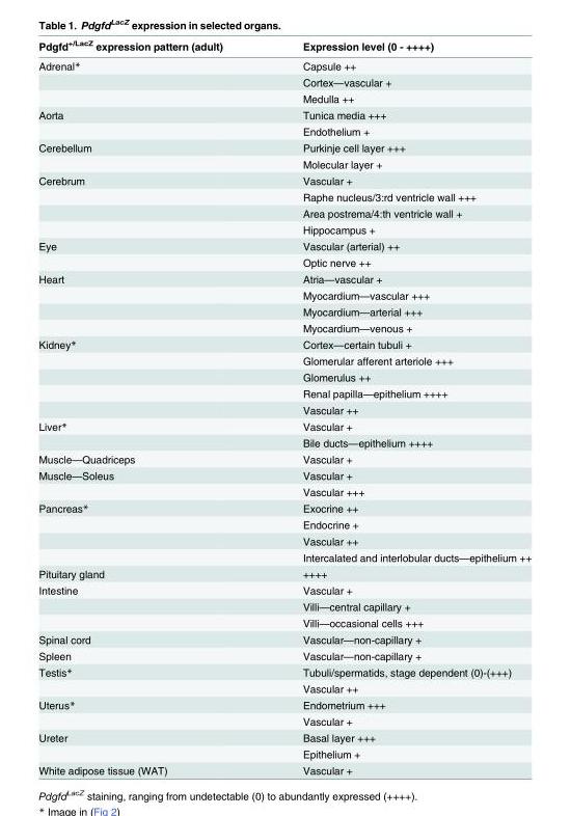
<table><thead><tr><td>Pdgfd<sup>+/LacZ</sup> expression pattern (adult)</td><td>Expression level (0 - ++++)</td></tr></thead><tbody><tr><td rowspan="3">Adrenal*</td><td>Capsule ++</td></tr><tr><td>Cortex—vascular +</td></tr><tr><td>Medulla ++</td></tr><tr><td rowspan="2">Aorta</td><td>Tunica media +++</td></tr><tr><td>Endothelium +</td></tr><tr><td rowspan="2">Cerebellum</td><td>Purkinje cell layer +++</td></tr><tr><td>Molecular layer +</td></tr><tr><td rowspan="4">Cerebrum</td><td>Vascular +</td></tr><tr><td>Raphe nucleus/3:rd ventricle wall +++</td></tr><tr><td>Area postrema/4:th ventricle wall +</td></tr><tr><td>Hippocampus +</td></tr><tr><td rowspan="2">Eye</td><td>Vascular (arterial) ++</td></tr><tr><td>Optic nerve ++</td></tr><tr><td rowspan="4">Heart</td><td>Atria—vascular +</td></tr><tr><td>Myocardium—vascular +++</td></tr><tr><td>Myocardium—arterial +++</td></tr><tr><td>Myocardium—venous +</td></tr><tr><td rowspan="5">Kidney*</td><td>Cortex—certain tubuli +</td></tr><tr><td>Glomerular afferent arteriole +++</td></tr><tr><td>Glomerulus ++</td></tr><tr><td>Renal papilla—epithelium ++++</td></tr><tr><td>Vascular ++</td></tr><tr><td rowspan="2">Liver*</td><td>Vascular +</td></tr><tr><td>Bile ducts—epithelium ++++</td></tr><tr><td>Muscle—Quadriceps</td><td>Vascular +</td></tr><tr><td rowspan="2">Muscle—Soleus</td><td>Vascular +</td></tr><tr><td>Vascular +++</td></tr><tr><td rowspan="4">Pancreas*</td><td>Exocrine ++</td></tr><tr><td>Endocrine +</td></tr><tr><td>Vascular ++</td></tr><tr><td>Intercalated and interlobular ducts—epithelium ++</td></tr><tr><td>Pituitary gland</td><td>++++</td></tr><tr><td rowspan="3">Intestine</td><td>Vascular +</td></tr><tr><td>Villi—central capillary +</td></tr><tr><td>Villi—occasional cells +++</td></tr><tr><td>Spinal cord</td><td>Vascular—non-capillary +</td></tr><tr><td>Spleen</td><td>Vascular—non-capillary +</td></tr><tr><td rowspan="2">Testis*</td><td>Tubuli/spermatids, stage dependent (0)-(+++)</td></tr><tr><td>Vascular ++</td></tr><tr><td rowspan="2">Uterus*</td><td>Endometrium +++</td></tr><tr><td>Vascular +</td></tr><tr><td rowspan="2">Ureter</td><td>Basal layer +++</td></tr><tr><td>Epithelium +</td></tr><tr><td>White adipose tissue (WAT)</td><td>Vascular +</td></tr></tbody></table>